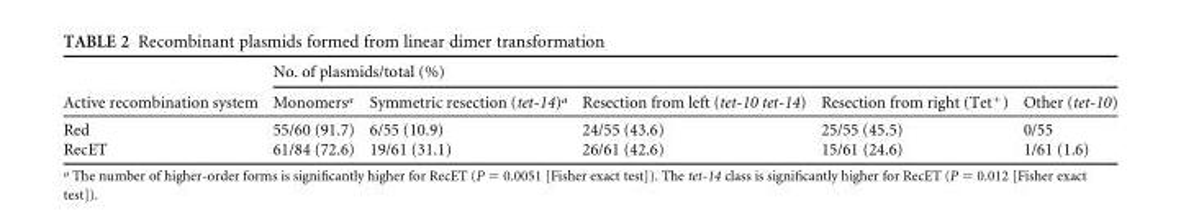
<table><thead><tr><td rowspan="2">Active recombination system</td><td colspan="5">No. of plasmids/total (%)</td></tr><tr><td>Monomers<sup>a</sup></td><td>Symmetric resection (tet-14)<sup>a</sup></td><td>Resection from left (tet-10 tet-14)</td><td>Resection from right (Tet<sup>+</sup>)</td><td>Other (tet-10)</td></tr></thead><tbody><tr><td>Red</td><td>55/60 (91.7)</td><td>6/55 (10.9)</td><td>24/55 (43.6)</td><td>25/55 (45.5)</td><td>0/55</td></tr><tr><td>RecET</td><td>61/84 (72.6)</td><td>19/61 (31.1)</td><td>26/61 (42.6)</td><td>15/61 (24.6)</td><td>1/61 (1.6)</td></tr></tbody></table>